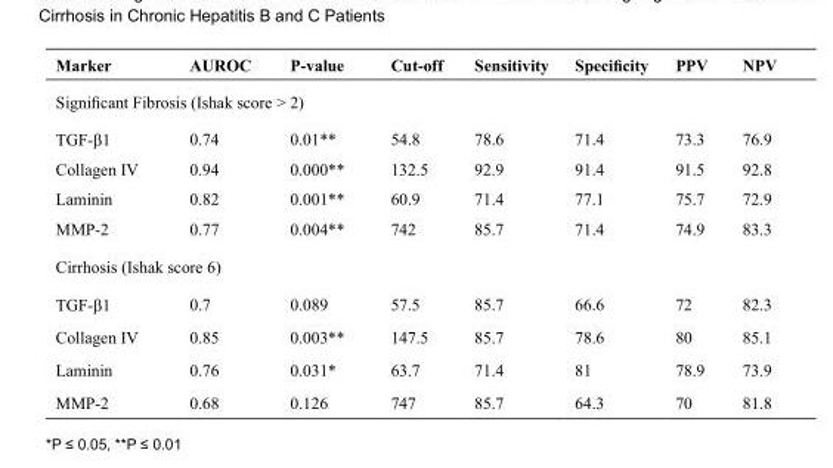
<table><thead><tr><td>Marker</td><td>AUROC</td><td>P-value</td><td>Cut-off</td><td>Sensitivity</td><td>Specificity</td><td>PPV</td><td>NPV</td></tr></thead><tbody><tr><td colspan="8">Significant Fibrosis (Ishak score &gt; 2)</td></tr><tr><td>TGF-β1</td><td>0.74</td><td>0.01**</td><td>54.8</td><td>78.6</td><td>71.4</td><td>73.3</td><td>76.9</td></tr><tr><td>Collagen IV</td><td>0.94</td><td>0.000**</td><td>132.5</td><td>92.9</td><td>91.4</td><td>91.5</td><td>92.8</td></tr><tr><td>Laminin</td><td>0.82</td><td>0.001**</td><td>60.9</td><td>71.4</td><td>77.1</td><td>75.7</td><td>72.9</td></tr><tr><td>MMP-2</td><td>0.77</td><td>0.004**</td><td>742</td><td>85.7</td><td>71.4</td><td>74.9</td><td>83.3</td></tr><tr><td colspan="8">Cirrhosis (Ishak score 6)</td></tr><tr><td>TGF-β1</td><td>0.7</td><td>0.089</td><td>57.5</td><td>85.7</td><td>66.6</td><td>72</td><td>82.3</td></tr><tr><td>Collagen IV</td><td>0.85</td><td>0.003**</td><td>147.5</td><td>85.7</td><td>78.6</td><td>80</td><td>85.1</td></tr><tr><td>Laminin</td><td>0.76</td><td>0.031*</td><td>63.7</td><td>71.4</td><td>81</td><td>78.9</td><td>73.9</td></tr><tr><td>MMP-2</td><td>0.68</td><td>0.126</td><td>747</td><td>85.7</td><td>64.3</td><td>70</td><td>81.8</td></tr></tbody></table>